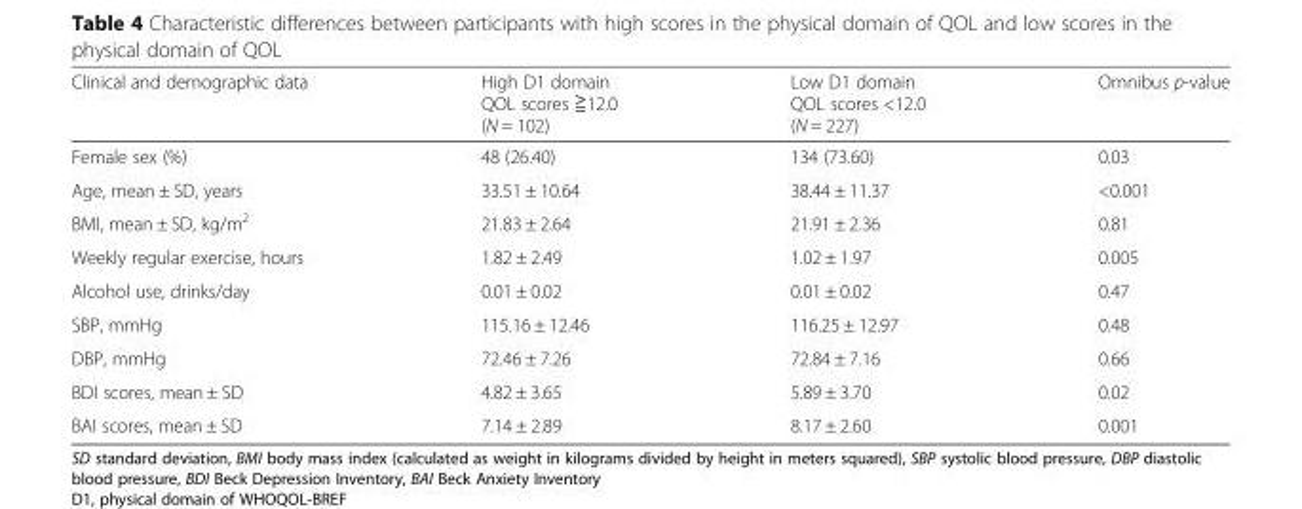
<table><thead><tr><td>Clinical and demographic data</td><td>High D1 domain QOL scores ≧12.0 (N = 102)</td><td>Low D1 domain QOL scores &lt;12.0 (N = 227)</td><td>Omnibus p-value</td></tr></thead><tbody><tr><td>Female sex (%)</td><td>48 (26.40)</td><td>134 (73.60)</td><td>0.03</td></tr><tr><td>Age, mean ± SD, years</td><td>33.51 ± 10.64</td><td>38.44 ± 11.37</td><td>&lt;0.001</td></tr><tr><td>BMI, mean ± SD, kg/m<sup>2</sup></td><td>21.83 ± 2.64</td><td>21.91 ± 2.36</td><td>0.81</td></tr><tr><td>Weekly regular exercise, hours</td><td>1.82 ± 2.49</td><td>1.02 ± 1.97</td><td>0.005</td></tr><tr><td>Alcohol use, drinks/day</td><td>0.01 ± 0.02</td><td>0.01 ± 0.02</td><td>0.47</td></tr><tr><td>SBP, mmHg</td><td>115.16 ± 12.46</td><td>116.25 ± 12.97</td><td>0.48</td></tr><tr><td>DBP, mmHg</td><td>72.46 ± 7.26</td><td>72.84 ± 7.16</td><td>0.66</td></tr><tr><td>BDI scores, mean ± SD</td><td>4.82 ± 3.65</td><td>5.89 ± 3.70</td><td>0.02</td></tr><tr><td>BAI scores, mean ± SD</td><td>7.14 ± 2.89</td><td>8.17 ± 2.60</td><td>0.001</td></tr></tbody></table>